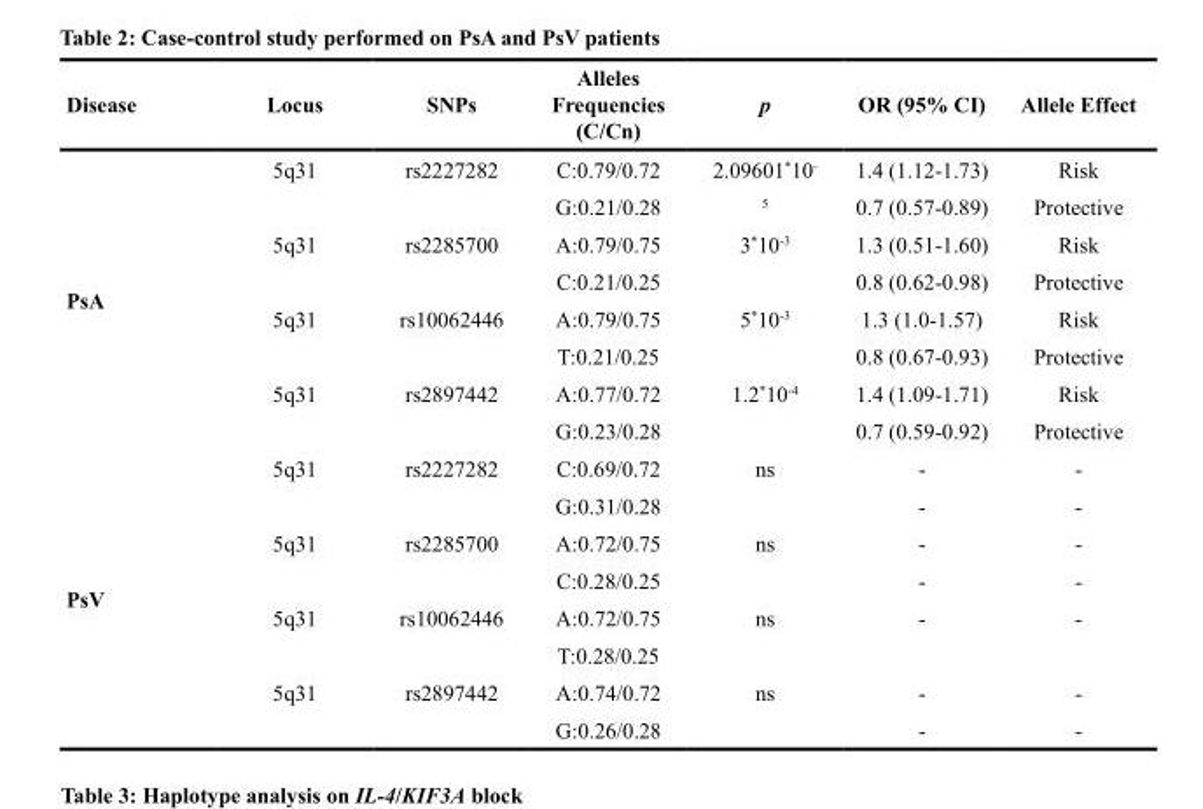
<table><thead><tr><td>Disease</td><td>Locus</td><td>SNPs</td><td>Alleles Frequencies (C/Cn)</td><td>p</td><td>OR (95% CI)</td><td>Allele Effect</td></tr></thead><tbody><tr><td rowspan="8">PsA</td><td>5q31</td><td>rs2227282</td><td>C:0.79/0.72</td><td>2.09601*10<sup>-</sup></td><td>1.4 (1.12-1.73)</td><td>Risk</td></tr><tr><td></td><td></td><td>G:0.21/0.28</td><td><sup>5</sup></td><td>0.7 (0.57-0.89)</td><td>Protective</td></tr><tr><td>5q31</td><td>rs2285700</td><td>A:0.79/0.75</td><td>3*10<sup>-3</sup></td><td>1.3 (0.51-1.60)</td><td>Risk</td></tr><tr><td></td><td></td><td>C:0.21/0.25</td><td></td><td>0.8 (0.62-0.98)</td><td>Protective</td></tr><tr><td>5q31</td><td>rs10062446</td><td>A:0.79/0.75</td><td>5*10<sup>-3</sup></td><td>1.3 (1.0-1.57)</td><td>Risk</td></tr><tr><td></td><td></td><td>T:0.21/0.25</td><td></td><td>0.8 (0.67-0.93)</td><td>Protective</td></tr><tr><td>5q31</td><td>rs2897442</td><td>A:0.77/0.72</td><td>1.2*10<sup>-4</sup></td><td>1.4 (1.09-1.71)</td><td>Risk</td></tr><tr><td></td><td></td><td>G:0.23/0.28</td><td></td><td>0.7 (0.59-0.92)</td><td>Protective</td></tr><tr><td rowspan="8">PsV</td><td>5q31</td><td>rs2227282</td><td>C:0.69/0.72</td><td>ns</td><td>-</td><td>-</td></tr><tr><td></td><td></td><td>G:0.31/0.28</td><td></td><td>-</td><td>-</td></tr><tr><td>5q31</td><td>rs2285700</td><td>A:0.72/0.75</td><td>ns</td><td>-</td><td>-</td></tr><tr><td></td><td></td><td>C:0.28/0.25</td><td></td><td>-</td><td>-</td></tr><tr><td>5q31</td><td>rs10062446</td><td>A:0.72/0.75</td><td>ns</td><td>-</td><td>-</td></tr><tr><td></td><td></td><td>T:0.28/0.25</td><td></td><td></td><td></td></tr><tr><td>5q31</td><td>rs2897442</td><td>A:0.74/0.72</td><td>ns</td><td>-</td><td>-</td></tr><tr><td></td><td></td><td>G:0.26/0.28</td><td></td><td>-</td><td>-</td></tr></tbody></table>